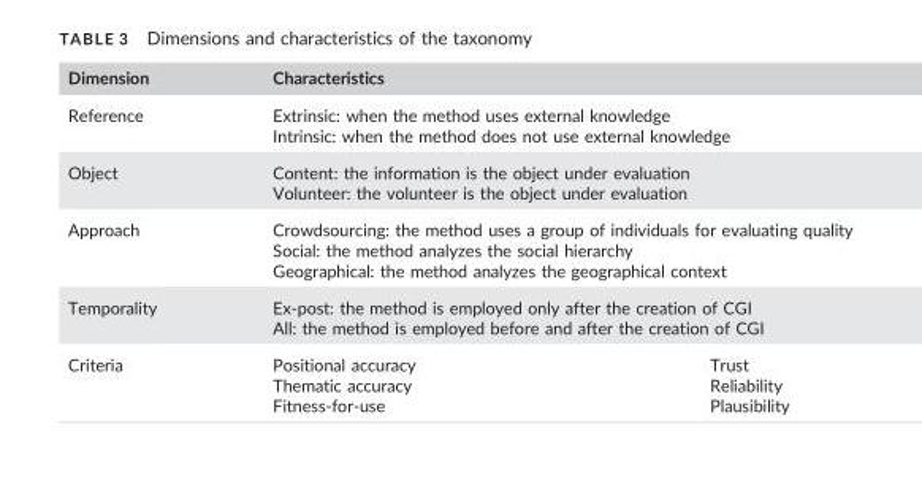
<table><thead><tr><td>Dimension</td><td colspan="2">Characteristics</td></tr></thead><tbody><tr><td>Reference</td><td colspan="2">Extrinsic: when the method uses external knowledge Intrinsic: when the method does not use external knowledge</td></tr><tr><td>Object</td><td colspan="2">Content: the information is the object under evaluation Volunteer: the volunteer is the object under evaluation</td></tr><tr><td>Approach</td><td colspan="2">Crowdsourcing: the method uses a group of individuals for evaluating quality Social: the method analyzes the social hierarchy Geographical: the method analyzes the geographical context</td></tr><tr><td>Temporality</td><td colspan="2">Ex-post: the method is employed only after the creation of CGI All: the method is employed before and after the creation of CGI</td></tr><tr><td>Criteria</td><td>Positional accuracy Thematic accuracy Fitness-for-use</td><td>Trust Reliability Plausibility</td></tr></tbody></table>